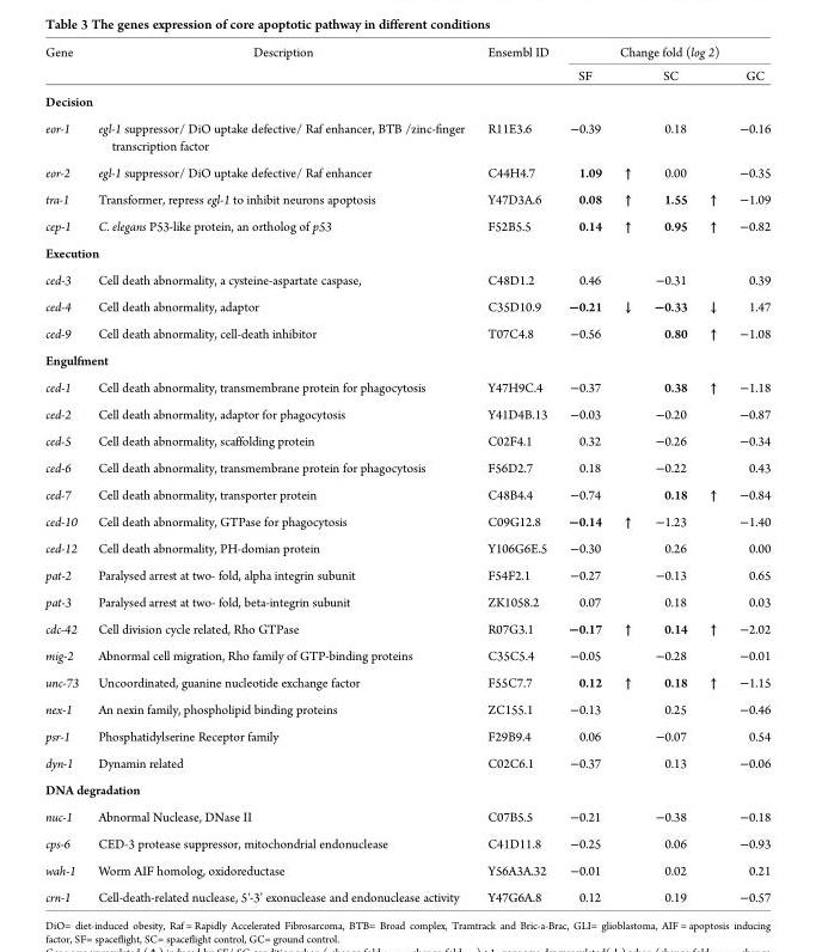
<table><thead><tr><td rowspan="2">Gene</td><td rowspan="2">Description</td><td rowspan="2">Ensembl ID</td><td colspan="5">Change fold (log 2)</td></tr><tr><td>SF</td><td></td><td>SC</td><td></td><td>GC</td></tr></thead><tbody><tr><td colspan="8">Decision</td></tr><tr><td>eor-1</td><td>egl-1 suppressor/ DiO uptake defective/ Raf enhancer, BTB /zinc-finger transcription factor</td><td>R11E3.6</td><td>−0.39</td><td></td><td>0.18</td><td></td><td>−0.16</td></tr><tr><td>eor-2</td><td>egl-1 suppressor/ DiO uptake defective/ Raf enhancer</td><td>C44H4.7</td><td>1.09</td><td>↑</td><td>0.00</td><td></td><td>−0.35</td></tr><tr><td>tra-1</td><td>Transformer, repress egl-1 to inhibit neurons apoptosis</td><td>Y47D3A.6</td><td>0.08</td><td>↑</td><td>1.55</td><td>↑</td><td>−1.09</td></tr><tr><td>cep-1</td><td>C. elegans P53-like protein, an ortholog of p53</td><td>F52B5.5</td><td>0.14</td><td>↑</td><td>0.95</td><td>↑</td><td>−0.82</td></tr><tr><td colspan="8">Execution</td></tr><tr><td>ced-3</td><td>Cell death abnormality, a cysteine-aspartate caspase,</td><td>C48D1.2</td><td>0.46</td><td></td><td>−0.31</td><td></td><td>0.39</td></tr><tr><td>ced-4</td><td>Cell death abnormality, adaptor</td><td>C35D10.9</td><td>−0.21</td><td>↓</td><td>−0.33</td><td>↓</td><td>1.47</td></tr><tr><td>ced-9</td><td>Cell death abnormality, cell-death inhibitor</td><td>T07C4.8</td><td>−0.56</td><td></td><td>0.80</td><td>↑</td><td>−1.08</td></tr><tr><td colspan="8">Engulfment</td></tr><tr><td>ced-1</td><td>Cell death abnormality, transmembrane protein for phagocytosis</td><td>Y47H9C.4</td><td>−0.37</td><td></td><td>0.38</td><td>↑</td><td>−1.18</td></tr><tr><td>ced-2</td><td>Cell death abnormality, adaptor for phagocytosis</td><td>Y41D4B.13</td><td>−0.03</td><td></td><td>−0.20</td><td></td><td>−0.87</td></tr><tr><td>ced-5</td><td>Cell death abnormality, scaffolding protein</td><td>C02F4.1</td><td>0.32</td><td></td><td>−0.26</td><td></td><td>−0.34</td></tr><tr><td>ced-6</td><td>Cell death abnormality, transmembrane protein for phagocytosis</td><td>F56D2.7</td><td>0.18</td><td></td><td>−0.22</td><td></td><td>0.43</td></tr><tr><td>ced-7</td><td>Cell death abnormality, transporter protein</td><td>C48B4.4</td><td>−0.74</td><td></td><td>0.18</td><td>↑</td><td>−0.84</td></tr><tr><td>ced-10</td><td>Cell death abnormality, GTPase for phagocytosis</td><td>C09G12.8</td><td>−0.14</td><td>↑</td><td>−1.23</td><td></td><td>−1.40</td></tr><tr><td>ced-12</td><td>Cell death abnormality, PH-domian protein</td><td>Y106G6E.5</td><td>−0.30</td><td></td><td>0.26</td><td></td><td>0.00</td></tr><tr><td>pat-2</td><td>Paralysed arrest at two- fold, alpha integrin subunit</td><td>F54F2.1</td><td>−0.27</td><td></td><td>−0.13</td><td></td><td>0.65</td></tr><tr><td>pat-3</td><td>Paralysed arrest at two- fold, beta-integrin subunit</td><td>ZK1058.2</td><td>0.07</td><td></td><td>0.18</td><td></td><td>0.03</td></tr><tr><td>cdc-42</td><td>Cell division cycle related, Rho GTPase</td><td>R07G3.1</td><td>−0.17</td><td>↑</td><td>0.14</td><td>↑</td><td>−2.02</td></tr><tr><td>mig-2</td><td>Abnormal cell migration, Rho family of GTP-binding proteins</td><td>C35C5.4</td><td>−0.05</td><td></td><td>−0.28</td><td></td><td>−0.01</td></tr><tr><td>unc-73</td><td>Uncoordinated, guanine nucleotide exchange factor</td><td>F55C7.7</td><td>0.12</td><td>↑</td><td>0.18</td><td>↑</td><td>−1.15</td></tr><tr><td>nex-1</td><td>An nexin family, phospholipid binding proteins</td><td>ZC155.1</td><td>−0.13</td><td></td><td>0.25</td><td></td><td>−0.46</td></tr><tr><td>psr-1</td><td>Phosphatidylserine Receptor family</td><td>F29B9.4</td><td>0.06</td><td></td><td>−0.07</td><td></td><td>0.54</td></tr><tr><td>dyn-1</td><td>Dynamin related</td><td>C02C6.1</td><td>−0.37</td><td></td><td>0.13</td><td></td><td>−0.06</td></tr><tr><td colspan="8">DNA degradation</td></tr><tr><td>nuc-1</td><td>Abnormal Nuclease, DNase II</td><td>C07B5.5</td><td>−0.21</td><td></td><td>−0.38</td><td></td><td>−0.18</td></tr><tr><td>cps-6</td><td>CED-3 protease suppressor, mitochondrial endonuclease</td><td>C41D11.8</td><td>−0.25</td><td></td><td>0.06</td><td></td><td>−0.93</td></tr><tr><td>wah-1</td><td>Worm AIF homolog, oxidoreductase</td><td>Y56A3A.32</td><td>−0.01</td><td></td><td>0.02</td><td></td><td>0.21</td></tr><tr><td>crn-1</td><td>Cell-death-related nuclease, 5′-3’ exonuclease and endonuclease activity</td><td>Y47G6A.8</td><td>0.12</td><td></td><td>0.19</td><td></td><td>−0.57</td></tr></tbody></table>